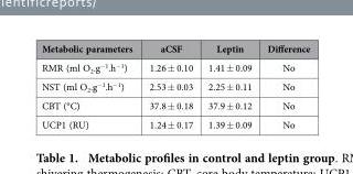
<table><thead><tr><td>Metabolic parameters</td><td>aCSF</td><td>Leptin</td><td>Difference</td></tr></thead><tbody><tr><td>RMR (ml O<sub>2</sub>.g<sup>−1</sup>.h<sup>−1</sup>)</td><td>1.26 ± 0.10</td><td>1.41 ± 0.09</td><td>No</td></tr><tr><td>NST (ml O<sub>2</sub>.g<sup>−1</sup>.h<sup>−1</sup>)</td><td>2.53 ± 0.03</td><td>2.25 ± 0.11</td><td>No</td></tr><tr><td>CBT (°C)</td><td>37.8 ± 0.18</td><td>37.9 ± 0.12</td><td>No</td></tr><tr><td>UCP1 (RU)</td><td>1.24 ± 0.17</td><td>1.39 ± 0.09</td><td>No</td></tr></tbody></table>